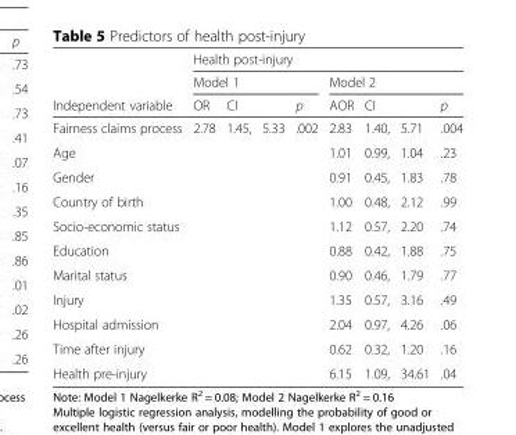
<table><thead><tr><td rowspan="3">Independent variable</td><td colspan="8">Health post-injury</td></tr><tr><td colspan="4">Model 1</td><td colspan="4">Model 2</td></tr><tr><td>OR</td><td>CI</td><td></td><td>p</td><td>AOR</td><td>CI</td><td></td><td>p</td></tr></thead><tbody><tr><td>Fairness claims process</td><td>2.78</td><td>1.45,</td><td>5.33</td><td>.002</td><td>2.83</td><td>1.40,</td><td>5.71</td><td>.004</td></tr><tr><td>Age</td><td></td><td></td><td></td><td></td><td>1.01</td><td>0.99,</td><td>1.04</td><td>.23</td></tr><tr><td>Gender</td><td></td><td></td><td></td><td></td><td>0.91</td><td>0.45,</td><td>1.83</td><td>.78</td></tr><tr><td>Country of birth</td><td></td><td></td><td></td><td></td><td>1.00</td><td>0.48,</td><td>2.12</td><td>.99</td></tr><tr><td>Socio-economic status</td><td></td><td></td><td></td><td></td><td>1.12</td><td>0.57,</td><td>2.20</td><td>.74</td></tr><tr><td>Education</td><td></td><td></td><td></td><td></td><td>0.88</td><td>0.42,</td><td>1.88</td><td>.75</td></tr><tr><td>Marital status</td><td></td><td></td><td></td><td></td><td>0.90</td><td>0.46,</td><td>1.79</td><td>.77</td></tr><tr><td>Injury</td><td></td><td></td><td></td><td></td><td>1.35</td><td>0.57,</td><td>3.16</td><td>.49</td></tr><tr><td>Hospital admission</td><td></td><td></td><td></td><td></td><td>2.04</td><td>0.97,</td><td>4.26</td><td>.06</td></tr><tr><td>Time after injury</td><td></td><td></td><td></td><td></td><td>0.62</td><td>0.32,</td><td>1.20</td><td>.16</td></tr><tr><td>Health pre-injury</td><td></td><td></td><td></td><td></td><td>6.15</td><td>1.09,</td><td>34.61</td><td>.04</td></tr></tbody></table>